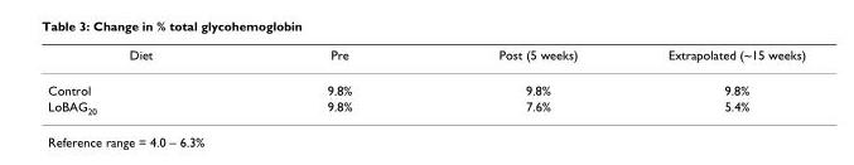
<table><thead><tr><td>Diet</td><td>Pre</td><td>Post (5 weeks)</td><td>Extrapolated (~15 weeks)</td></tr></thead><tbody><tr><td>Control</td><td>9.8%</td><td>9.8%</td><td>9.8%</td></tr><tr><td>LoBAG<sub>20</sub></td><td>9.8%</td><td>7.6%</td><td>5.4%</td></tr></tbody></table>